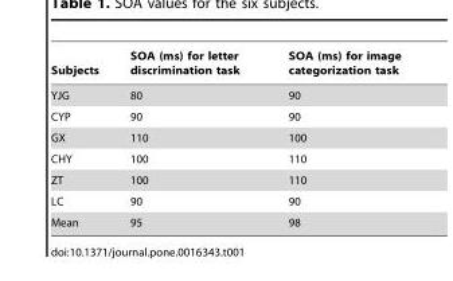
<table><thead><tr><td>Subjects</td><td>SOA (ms) for letter discrimination task</td><td>SOA (ms) for image categorization task</td></tr></thead><tbody><tr><td>YJG</td><td>80</td><td>90</td></tr><tr><td>CYP</td><td>90</td><td>90</td></tr><tr><td>GX</td><td>110</td><td>100</td></tr><tr><td>CHY</td><td>100</td><td>110</td></tr><tr><td>ZT</td><td>100</td><td>110</td></tr><tr><td>LC</td><td>90</td><td>90</td></tr><tr><td>Mean</td><td>95</td><td>98</td></tr></tbody></table>